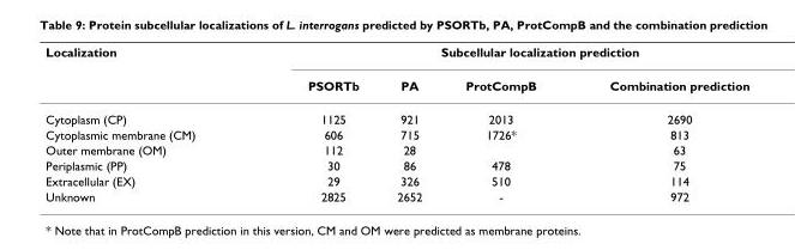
<table><thead><tr><td rowspan="2">Localization</td><td colspan="4">Subcellular localization prediction</td></tr><tr><td>PSORTb</td><td>PA</td><td>ProtCompB</td><td>Combination prediction</td></tr></thead><tbody><tr><td>Cytoplasm (CP)</td><td>1125</td><td>921</td><td>2013</td><td>2690</td></tr><tr><td>Cytoplasmic membrane (CM)</td><td>606</td><td>715</td><td>1726*</td><td>813</td></tr><tr><td>Outer membrane (OM)</td><td>112</td><td>28</td><td></td><td>63</td></tr><tr><td>Periplasmic (PP)</td><td>30</td><td>86</td><td>478</td><td>75</td></tr><tr><td>Extracellular (EX)</td><td>29</td><td>326</td><td>510</td><td>114</td></tr><tr><td>Unknown</td><td>2825</td><td>2652</td><td>-</td><td>972</td></tr></tbody></table>